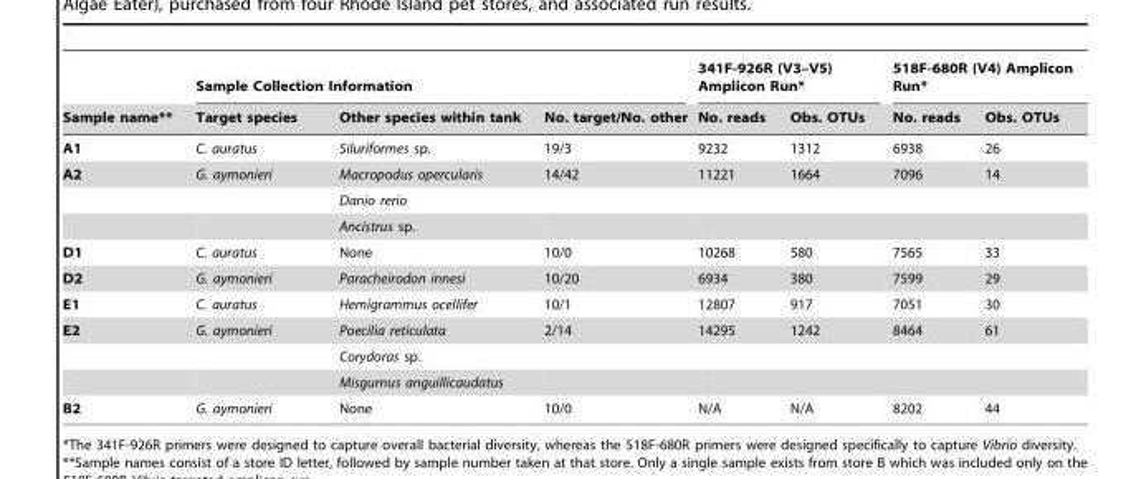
<table><thead><tr><td rowspan="2">Sample name**</td><td colspan="3">Sample Collection Information</td><td colspan="2">341F-926R (V3–V5) Amplicon Run*</td><td colspan="2">518F-680R (V4) Amplicon Run*</td></tr><tr><td>Target species</td><td>Other species within tank</td><td>No. target/No. other</td><td>No. reads</td><td>Obs. OTUs</td><td>No. reads</td><td>Obs. OTUs</td></tr></thead><tbody><tr><td>A1</td><td>C. auratus</td><td>Siluriformes sp.</td><td>19/3</td><td>9232</td><td>1312</td><td>6938</td><td>26</td></tr><tr><td rowspan="3">A2</td><td>G. aymonieri</td><td>Macropodus opercularis</td><td>14/42</td><td>11221</td><td>1664</td><td>7096</td><td>14</td></tr><tr><td></td><td>Danio rerio</td><td></td><td></td><td></td><td></td><td></td></tr><tr><td></td><td>Ancistrus sp.</td><td></td><td></td><td></td><td></td><td></td></tr><tr><td>D1</td><td>C. auratus</td><td>None</td><td>10/0</td><td>10268</td><td>580</td><td>7565</td><td>33</td></tr><tr><td>D2</td><td>G. aymonieri</td><td>Paracheirodon innesi</td><td>10/20</td><td>6934</td><td>380</td><td>7599</td><td>29</td></tr><tr><td>E1</td><td>C. auratus</td><td>Hemigrammus ocellifer</td><td>10/1</td><td>12807</td><td>917</td><td>7051</td><td>30</td></tr><tr><td rowspan="3">E2</td><td>G. aymonieri</td><td>Poecilia reticulata</td><td>2/14</td><td>14295</td><td>1242</td><td>8464</td><td>61</td></tr><tr><td></td><td>Corydoras sp.</td><td></td><td></td><td></td><td></td><td></td></tr><tr><td></td><td>Misgurnus anguillicaudatus</td><td></td><td></td><td></td><td></td><td></td></tr><tr><td>B2</td><td>G. aymonieri</td><td>None</td><td>10/0</td><td>N/A</td><td>N/A</td><td>8202</td><td>44</td></tr></tbody></table>